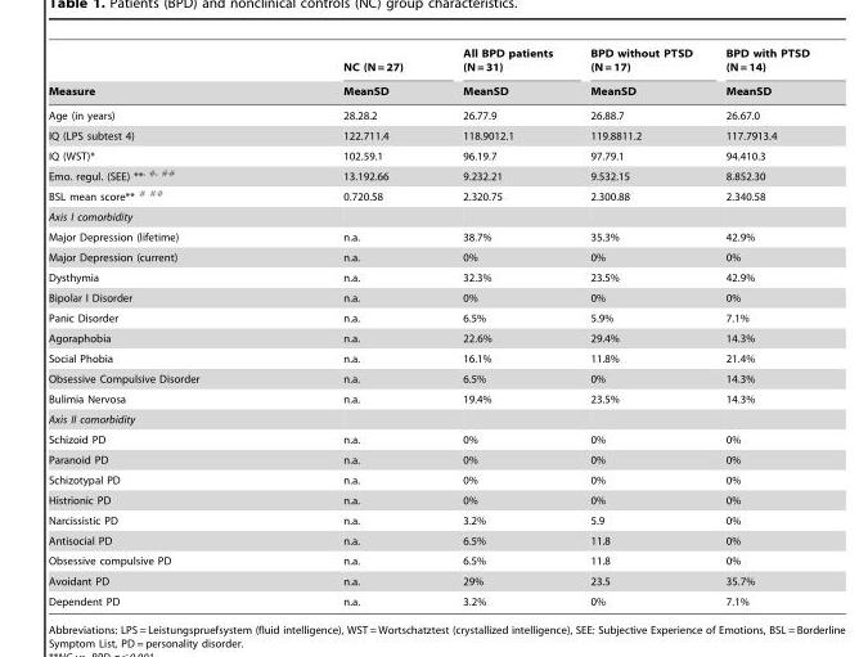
<table><thead><tr><td rowspan="2">Measure</td><td rowspan="2">NC (N = 27) MeanSD</td><td rowspan="2">All BPD patients (N = 31) MeanSD</td><td rowspan="2">BPD without PTSD (N = 17) MeanSD</td><td rowspan="2">BPD with PTSD (N = 14) MeanSD</td></tr><tr></tr></thead><tbody><tr><td>Age (in years)</td><td>28.28.2</td><td>26.77.9</td><td>26.88.7</td><td>26.67.0</td></tr><tr><td>IQ (LPS subtest 4)</td><td>122.711.4</td><td>118.9012.1</td><td>119.8811.2</td><td>117.7913.4</td></tr><tr><td>IQ (WST)*</td><td>102.59.1</td><td>96.19.7</td><td>97.79.1</td><td>94.410.3</td></tr><tr><td>Emo. regul. (SEE) **<sup>,</sup> #, ##</td><td>13.192.66</td><td>9.232.21</td><td>9.532.15</td><td>8.852.30</td></tr><tr><td>BSL mean score** # ##</td><td>0.720.58</td><td>2.320.75</td><td>2.300.88</td><td>2.340.58</td></tr><tr><td colspan="5">Axis I comorbidity</td></tr><tr><td>Major Depression (lifetime)</td><td>n.a.</td><td>38.7%</td><td>35.3%</td><td>42.9%</td></tr><tr><td>Major Depression (current)</td><td>n.a.</td><td>0%</td><td>0%</td><td>0%</td></tr><tr><td>Dysthymia</td><td>n.a.</td><td>32.3%</td><td>23.5%</td><td>42.9%</td></tr><tr><td>Bipolar I Disorder</td><td>n.a.</td><td>0%</td><td>0%</td><td>0%</td></tr><tr><td>Panic Disorder</td><td>n.a.</td><td>6.5%</td><td>5.9%</td><td>7.1%</td></tr><tr><td>Agoraphobia</td><td>n.a.</td><td>22.6%</td><td>29.4%</td><td>14.3%</td></tr><tr><td>Social Phobia</td><td>n.a.</td><td>16.1%</td><td>11.8%</td><td>21.4%</td></tr><tr><td>Obsessive Compulsive Disorder</td><td>n.a.</td><td>6.5%</td><td>0%</td><td>14.3%</td></tr><tr><td>Bulimia Nervosa</td><td>n.a.</td><td>19.4%</td><td>23.5%</td><td>14.3%</td></tr><tr><td colspan="5">Axis II comorbidity</td></tr><tr><td>Schizoid PD</td><td>n.a.</td><td>0%</td><td>0%</td><td>0%</td></tr><tr><td>Paranoid PD</td><td>n.a.</td><td>0%</td><td>0%</td><td>0%</td></tr><tr><td>Schizotypal PD</td><td>n.a.</td><td>0%</td><td>0%</td><td>0%</td></tr><tr><td>Histrionic PD</td><td>n.a.</td><td>0%</td><td>0%</td><td>0%</td></tr><tr><td>Narcissistic PD</td><td>n.a.</td><td>3.2%</td><td>5.9</td><td>0%</td></tr><tr><td>Antisocial PD</td><td>n.a.</td><td>6.5%</td><td>11.8</td><td>0%</td></tr><tr><td>Obsessive compulsive PD</td><td>n.a.</td><td>6.5%</td><td>11.8</td><td>0%</td></tr><tr><td>Avoidant PD</td><td>n.a.</td><td>29%</td><td>23.5</td><td>35.7%</td></tr><tr><td>Dependent PD</td><td>n.a.</td><td>3.2%</td><td>0%</td><td>7.1%</td></tr></tbody></table>